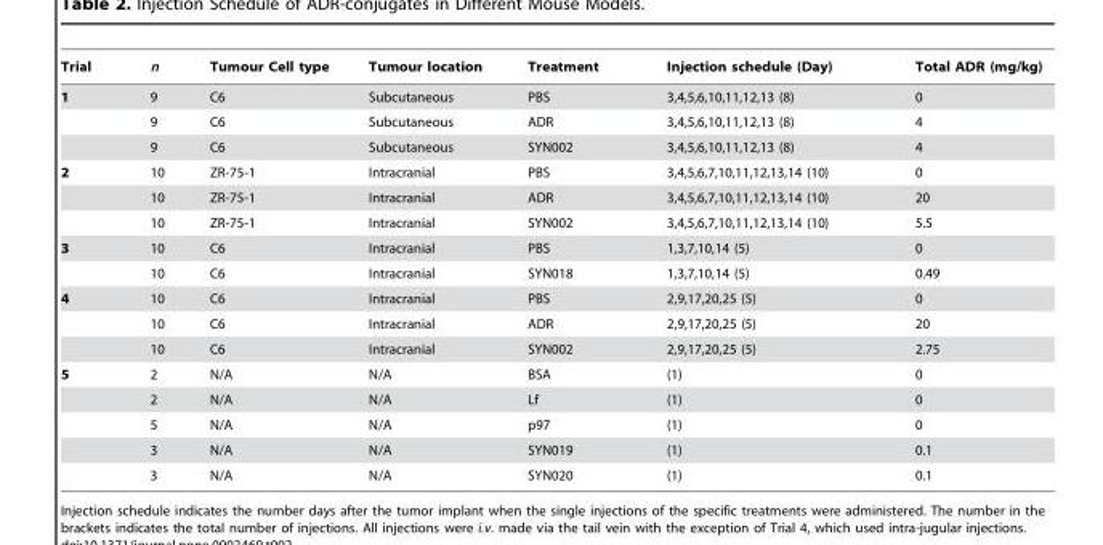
<table><thead><tr><td>Trial</td><td>n</td><td>Tumour Cell type</td><td>Tumour location</td><td>Treatment</td><td>Injection schedule (Day)</td><td>Total ADR (mg/kg)</td></tr></thead><tbody><tr><td rowspan="3">1</td><td>9</td><td>C6</td><td>Subcutaneous</td><td>PBS</td><td>3,4,5,6,10,11,12,13 (8)</td><td>0</td></tr><tr><td>9</td><td>C6</td><td>Subcutaneous</td><td>ADR</td><td>3,4,5,6,10,11,12,13 (8)</td><td>4</td></tr><tr><td>9</td><td>C6</td><td>Subcutaneous</td><td>SYN002</td><td>3,4,5,6,10,11,12,13 (8)</td><td>4</td></tr><tr><td rowspan="3">2</td><td>10</td><td>ZR-75-1</td><td>Intracranial</td><td>PBS</td><td>3,4,5,6,7,10,11,12,13,14 (10)</td><td>0</td></tr><tr><td>10</td><td>ZR-75-1</td><td>Intracranial</td><td>ADR</td><td>3,4,5,6,7,10,11,12,13,14 (10)</td><td>20</td></tr><tr><td>10</td><td>ZR-75-1</td><td>Intracranial</td><td>SYN002</td><td>3,4,5,6,7,10,11,12,13,14 (10)</td><td>5.5</td></tr><tr><td rowspan="2">3</td><td>10</td><td>C6</td><td>Intracranial</td><td>PBS</td><td>1,3,7,10,14 (5)</td><td>0</td></tr><tr><td>10</td><td>C6</td><td>Intracranial</td><td>SYN018</td><td>1,3,7,10,14 (5)</td><td>0.49</td></tr><tr><td rowspan="3">4</td><td>10</td><td>C6</td><td>Intracranial</td><td>PBS</td><td>2,9,17,20,25 (5)</td><td>0</td></tr><tr><td>10</td><td>C6</td><td>Intracranial</td><td>ADR</td><td>2,9,17,20,25 (5)</td><td>20</td></tr><tr><td>10</td><td>C6</td><td>Intracranial</td><td>SYN002</td><td>2,9,17,20,25 (5)</td><td>2.75</td></tr><tr><td rowspan="5">5</td><td>2</td><td>N/A</td><td>N/A</td><td>BSA</td><td>(1)</td><td>0</td></tr><tr><td>2</td><td>N/A</td><td>N/A</td><td>Lf</td><td>(1)</td><td>0</td></tr><tr><td>5</td><td>N/A</td><td>N/A</td><td>p97</td><td>(1)</td><td>0</td></tr><tr><td>3</td><td>N/A</td><td>N/A</td><td>SYN019</td><td>(1)</td><td>0.1</td></tr><tr><td>3</td><td>N/A</td><td>N/A</td><td>SYN020</td><td>(1)</td><td>0.1</td></tr></tbody></table>